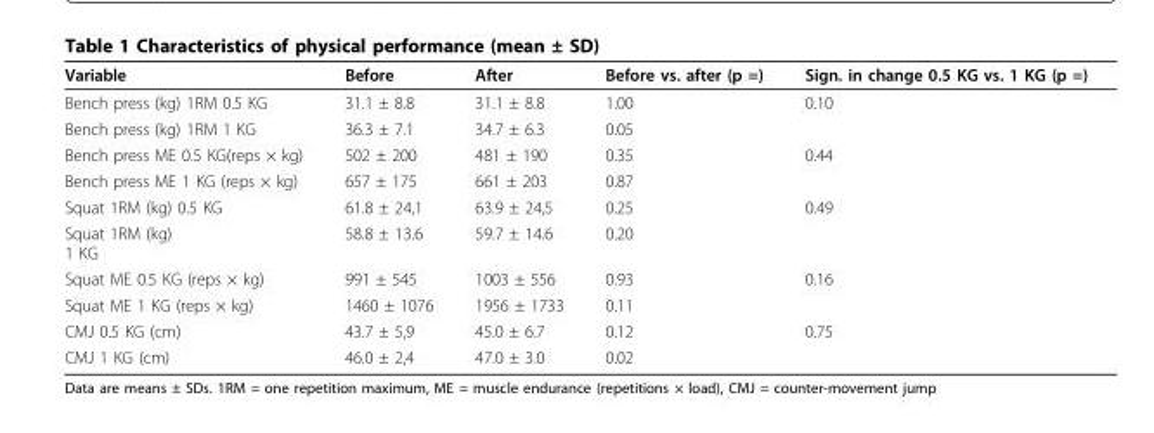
<table><thead><tr><td>Variable</td><td>Before</td><td>After</td><td>Before vs. after (p =)</td><td>Sign. in change 0.5 KG vs. 1 KG (p =)</td></tr></thead><tbody><tr><td>Bench press (kg) 1RM 0.5 KG</td><td>31.1 ± 8.8</td><td>31.1 ± 8.8</td><td>1.00</td><td>0.10</td></tr><tr><td>Bench press (kg) 1RM 1 KG</td><td>36.3 ± 7.1</td><td>34.7 ± 6.3</td><td>0.05</td><td></td></tr><tr><td>Bench press ME 0.5 KG(reps × kg)</td><td>502 ± 200</td><td>481 ± 190</td><td>0.35</td><td>0.44</td></tr><tr><td>Bench press ME 1 KG (reps × kg)</td><td>657 ± 175</td><td>661 ± 203</td><td>0.87</td><td></td></tr><tr><td>Squat 1RM (kg) 0.5 KG</td><td>61.8 ± 24,1</td><td>63.9 ± 24,5</td><td>0.25</td><td>0.49</td></tr><tr><td>Squat 1RM (kg) 1 KG</td><td>58.8 ± 13.6</td><td>59.7 ± 14.6</td><td>0.20</td><td></td></tr><tr><td>Squat ME 0.5 KG (reps × kg)</td><td>991 ± 545</td><td>1003 ± 556</td><td>0.93</td><td>0.16</td></tr><tr><td>Squat ME 1 KG (reps × kg)</td><td>1460 ± 1076</td><td>1956 ± 1733</td><td>0.11</td><td></td></tr><tr><td>CMJ 0.5 KG (cm)</td><td>43.7 ± 5,9</td><td>45.0 ± 6.7</td><td>0.12</td><td>0.75</td></tr><tr><td>CMJ 1 KG (cm)</td><td>46.0 ± 2,4</td><td>47.0 ± 3.0</td><td>0.02</td><td></td></tr></tbody></table>